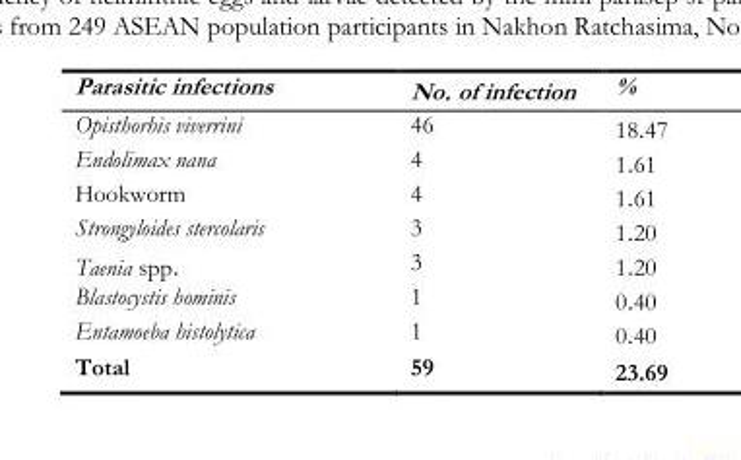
<table><thead><tr><td>Parasitic infections</td><td>No. of infection</td><td>%</td></tr></thead><tbody><tr><td>Opisthorhis viverrini</td><td>46</td><td>18.47</td></tr><tr><td>Endolimax nana</td><td>4</td><td>1.61</td></tr><tr><td>Hookworm</td><td>4</td><td>1.61</td></tr><tr><td>Strongyloides stercolaris</td><td>3</td><td>1.20</td></tr><tr><td>Taenia spp.</td><td>3</td><td>1.20</td></tr><tr><td>Blastocystis hominis</td><td>1</td><td>0.40</td></tr><tr><td>Entamoeba histolytica</td><td>1</td><td>0.40</td></tr><tr><td>Total</td><td>59</td><td>23.69</td></tr></tbody></table>